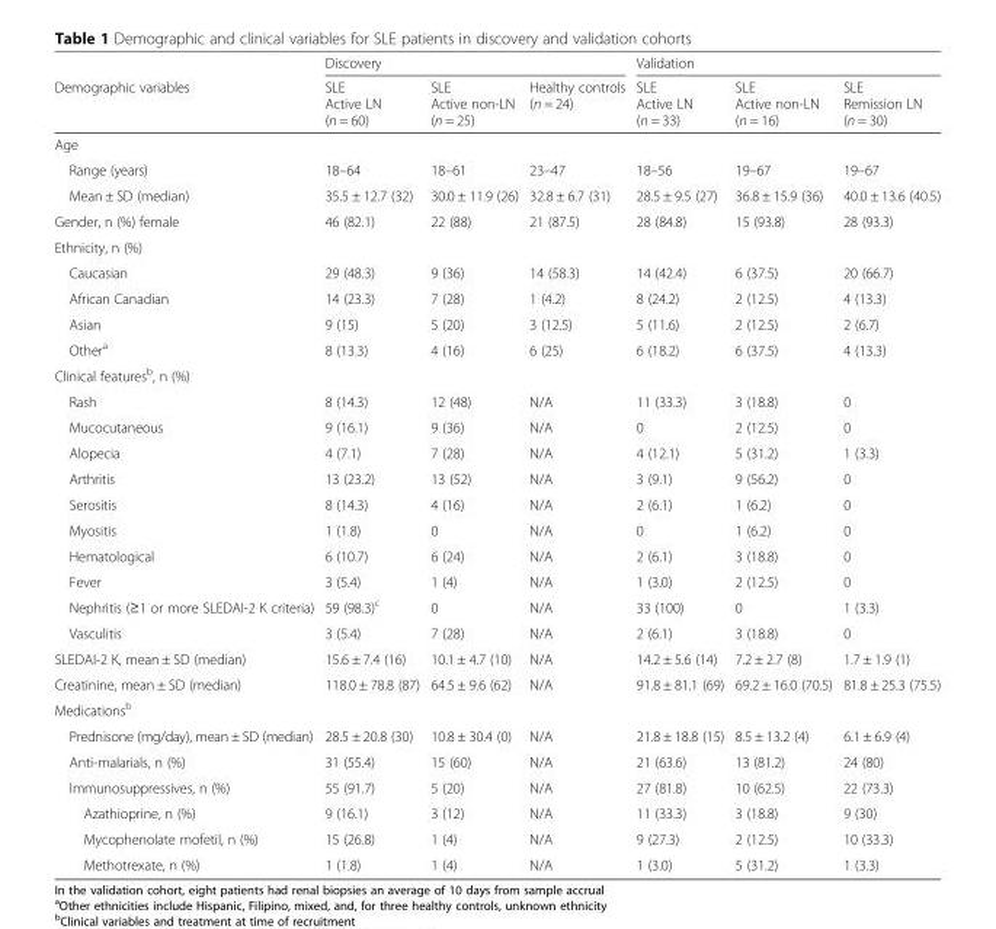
<table><thead><tr><td rowspan="2">Demographic variables</td><td colspan="3">Discovery</td><td colspan="3">Validation</td></tr><tr><td>SLE Active LN (n = 60)</td><td>SLE Active non-LN (n = 25)</td><td>Healthy controls (n = 24)</td><td>SLE Active LN (n = 33)</td><td>SLE Active non-LN (n = 16)</td><td>SLE Remission LN (n = 30)</td></tr></thead><tbody><tr><td colspan="7">Age</td></tr><tr><td>Range (years)</td><td>18–64</td><td>18–61</td><td>23–47</td><td>18–56</td><td>19–67</td><td>19–67</td></tr><tr><td>Mean ± SD (median)</td><td>35.5 ± 12.7 (32)</td><td>30.0 ± 11.9 (26)</td><td>32.8 ± 6.7 (31)</td><td>28.5 ± 9.5 (27)</td><td>36.8 ± 15.9 (36)</td><td>40.0 ± 13.6 (40.5)</td></tr><tr><td>Gender, n (%) female</td><td>46 (82.1)</td><td>22 (88)</td><td>21 (87.5)</td><td>28 (84.8)</td><td>15 (93.8)</td><td>28 (93.3)</td></tr><tr><td colspan="7">Ethnicity, n (%)</td></tr><tr><td>Caucasian</td><td>29 (48.3)</td><td>9 (36)</td><td>14 (58.3)</td><td>14 (42.4)</td><td>6 (37.5)</td><td>20 (66.7)</td></tr><tr><td>African Canadian</td><td>14 (23.3)</td><td>7 (28)</td><td>1 (4.2)</td><td>8 (24.2)</td><td>2 (12.5)</td><td>4 (13.3)</td></tr><tr><td>Asian</td><td>9 (15)</td><td>5 (20)</td><td>3 (12.5)</td><td>5 (11.6)</td><td>2 (12.5)</td><td>2 (6.7)</td></tr><tr><td>Other<sup>a</sup></td><td>8 (13.3)</td><td>4 (16)</td><td>6 (25)</td><td>6 (18.2)</td><td>6 (37.5)</td><td>4 (13.3)</td></tr><tr><td colspan="7">Clinical features<sup>b</sup>, n (%)</td></tr><tr><td>Rash</td><td>8 (14.3)</td><td>12 (48)</td><td>N/A</td><td>11 (33.3)</td><td>3 (18.8)</td><td>0</td></tr><tr><td>Mucocutaneous</td><td>9 (16.1)</td><td>9 (36)</td><td>N/A</td><td>0</td><td>2 (12.5)</td><td>0</td></tr><tr><td>Alopecia</td><td>4 (7.1)</td><td>7 (28)</td><td>N/A</td><td>4 (12.1)</td><td>5 (31.2)</td><td>1 (3.3)</td></tr><tr><td>Arthritis</td><td>13 (23.2)</td><td>13 (52)</td><td>N/A</td><td>3 (9.1)</td><td>9 (56.2)</td><td>0</td></tr><tr><td>Serositis</td><td>8 (14.3)</td><td>4 (16)</td><td>N/A</td><td>2 (6.1)</td><td>1 (6.2)</td><td>0</td></tr><tr><td>Myositis</td><td>1 (1.8)</td><td>0</td><td>N/A</td><td>0</td><td>1 (6.2)</td><td>0</td></tr><tr><td>Hematological</td><td>6 (10.7)</td><td>6 (24)</td><td>N/A</td><td>2 (6.1)</td><td>3 (18.8)</td><td>0</td></tr><tr><td>Fever</td><td>3 (5.4)</td><td>1 (4)</td><td>N/A</td><td>1 (3.0)</td><td>2 (12.5)</td><td>0</td></tr><tr><td>Nephritis (≥1 or more SLEDAI-2 K criteria)</td><td>59 (98.3)<sup>c</sup></td><td>0</td><td>N/A</td><td>33 (100)</td><td>0</td><td>1 (3.3)</td></tr><tr><td>Vasculitis</td><td>3 (5.4)</td><td>7 (28)</td><td>N/A</td><td>2 (6.1)</td><td>3 (18.8)</td><td>0</td></tr><tr><td>SLEDAI-2 K, mean ± SD (median)</td><td>15.6 ± 7.4 (16)</td><td>10.1 ± 4.7 (10)</td><td>N/A</td><td>14.2 ± 5.6 (14)</td><td>7.2 ± 2.7 (8)</td><td>1.7 ± 1.9 (1)</td></tr><tr><td>Creatinine, mean ± SD (median)</td><td>118.0 ± 78.8 (87)</td><td>64.5 ± 9.6 (62)</td><td>N/A</td><td>91.8 ± 81.1 (69)</td><td>69.2 ± 16.0 (70.5)</td><td>81.8 ± 25.3 (75.5)</td></tr><tr><td colspan="7">Medications<sup>b</sup></td></tr><tr><td>Prednisone (mg/day), mean ± SD (median)</td><td>28.5 ± 20.8 (30)</td><td>10.8 ± 30.4 (0)</td><td>N/A</td><td>21.8 ± 18.8 (15)</td><td>8.5 ± 13.2 (4)</td><td>6.1 ± 6.9 (4)</td></tr><tr><td>Anti-malarials, n (%)</td><td>31 (55.4)</td><td>15 (60)</td><td>N/A</td><td>21 (63.6)</td><td>13 (81.2)</td><td>24 (80)</td></tr><tr><td>Immunosuppressives, n (%)</td><td>55 (91.7)</td><td>5 (20)</td><td>N/A</td><td>27 (81.8)</td><td>10 (62.5)</td><td>22 (73.3)</td></tr><tr><td>Azathioprine, n (%)</td><td>9 (16.1)</td><td>3 (12)</td><td>N/A</td><td>11 (33.3)</td><td>3 (18.8)</td><td>9 (30)</td></tr><tr><td>Mycophenolate mofetil, n (%)</td><td>15 (26.8)</td><td>1 (4)</td><td>N/A</td><td>9 (27.3)</td><td>2 (12.5)</td><td>10 (33.3)</td></tr><tr><td>Methotrexate, n (%)</td><td>1 (1.8)</td><td>1 (4)</td><td>N/A</td><td>1 (3.0)</td><td>5 (31.2)</td><td>1 (3.3)</td></tr></tbody></table>